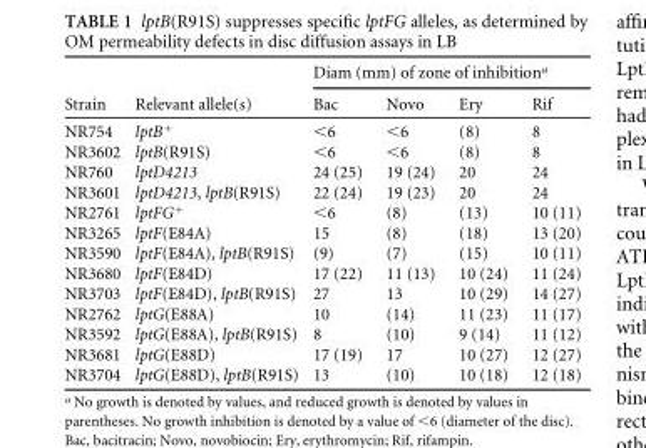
<table><thead><tr><td rowspan="2">Strain</td><td rowspan="2">Relevant allele(s)</td><td colspan="4">Diam (mm) of zone of inhibition<sup>a</sup></td></tr><tr><td>Bac</td><td>Novo</td><td>Ery</td><td>Rif</td></tr></thead><tbody><tr><td>NR754</td><td>lptB<sup>+</sup></td><td>&lt;6</td><td>&lt;6</td><td>(8)</td><td>8</td></tr><tr><td>NR3602</td><td>lptB(R91S)</td><td>&lt;6</td><td>&lt;6</td><td>(8)</td><td>8</td></tr><tr><td>NR760</td><td>lptD4213</td><td>24 (25)</td><td>19 (24)</td><td>20</td><td>24</td></tr><tr><td>NR3601</td><td>lptD4213, lptB(R91S)</td><td>22 (24)</td><td>19 (23)</td><td>20</td><td>24</td></tr><tr><td>NR2761</td><td>lptFG<sup>+</sup></td><td>&lt;6</td><td>(8)</td><td>(13)</td><td>10 (11)</td></tr><tr><td>NR3265</td><td>lptF(E84A)</td><td>15</td><td>(8)</td><td>(18)</td><td>13 (20)</td></tr><tr><td>NR3590</td><td>lptF(E84A), lptB(R91S)</td><td>(9)</td><td>(7)</td><td>(15)</td><td>10 (11)</td></tr><tr><td>NR3680</td><td>lptF(E84D)</td><td>17 (22)</td><td>11 (13)</td><td>10 (24)</td><td>11 (24)</td></tr><tr><td>NR3703</td><td>lptF(E84D), lptB(R91S)</td><td>27</td><td>13</td><td>10 (29)</td><td>14 (27)</td></tr><tr><td>NR2762</td><td>lptG(E88A)</td><td>10</td><td>(14)</td><td>11 (23)</td><td>11 (17)</td></tr><tr><td>NR3592</td><td>lptG(E88A), lptB(R91S)</td><td>8</td><td>(10)</td><td>9 (14)</td><td>11 (12)</td></tr><tr><td>NR3681</td><td>lptG(E88D)</td><td>17 (19)</td><td>17</td><td>10 (27)</td><td>12 (27)</td></tr><tr><td>NR3704</td><td>lptG(E88D), lptB(R91S)</td><td>13</td><td>(10)</td><td>10 (18)</td><td>12 (18)</td></tr></tbody></table>